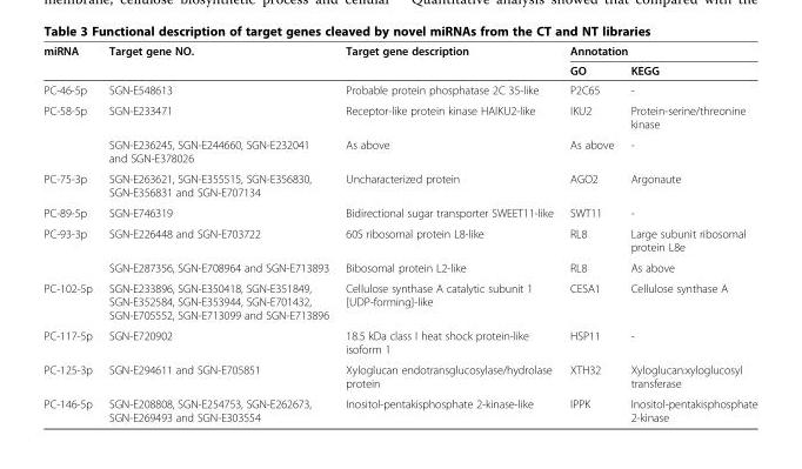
<table><thead><tr><td rowspan="2">miRNA</td><td rowspan="2">Target gene NO.</td><td rowspan="2">Target gene description</td><td colspan="2">Annotation</td></tr><tr><td>GO</td><td>KEGG</td></tr></thead><tbody><tr><td>PC-46-5p</td><td>SGN-E548613</td><td>Probable protein phosphatase 2C 35-like</td><td>P2C65</td><td>-</td></tr><tr><td rowspan="2">PC-58-5p</td><td>SGN-E233471</td><td>Receptor-like protein kinase HAIKU2-like</td><td>IKU2</td><td>Protein-serine/threonine kinase</td></tr><tr><td>SGN-E236245, SGN-E244660, SGN-E232041 and SGN-E378026</td><td>As above</td><td>As above</td><td>-</td></tr><tr><td>PC-75-3p</td><td>SGN-E263621, SGN-E355515, SGN-E356830, SGN-E356831 and SGN-E707134</td><td>Uncharacterized protein</td><td>AGO2</td><td>Argonaute</td></tr><tr><td>PC-89-5p</td><td>SGN-E746319</td><td>Bidirectional sugar transporter SWEET11-like</td><td>SWT11</td><td>-</td></tr><tr><td rowspan="2">PC-93-3p</td><td>SGN-E226448 and SGN-E703722</td><td>60S ribosomal protein L8-like</td><td>RL8</td><td>Large subunit ribosomal protein L8e</td></tr><tr><td>SGN-E287356, SGN-E708964 and SGN-E713893</td><td>Bibosomal protein L2-like</td><td>RL8</td><td>As above</td></tr><tr><td>PC-102-5p</td><td>SGN-E233896, SGN-E350418, SGN-E351849, SGN-E352584, SGN-E353944, SGN-E701432, SGN-E705552, SGN-E713099 and SGN-E713896</td><td>Cellulose synthase A catalytic subunit 1 [UDP-forming]-like</td><td>CESA1</td><td>Cellulose synthase A</td></tr><tr><td>PC-117-5p</td><td>SGN-E720902</td><td>18.5 kDa class I heat shock protein-like isoform 1</td><td>HSP11</td><td>-</td></tr><tr><td>PC-125-3p</td><td>SGN-E294611 and SGN-E705851</td><td>Xyloglucan endotransglucosylase/hydrolase protein</td><td>XTH32</td><td>Xyloglucan:xyloglucosyl transferase</td></tr><tr><td>PC-146-5p</td><td>SGN-E208808, SGN-E254753, SGN-E262673, SGN-E269493 and SGN-E303554</td><td>Inositol-pentakisphosphate 2-kinase-like</td><td>IPPK</td><td>Inositol-pentakisphosphate 2-kinase</td></tr></tbody></table>